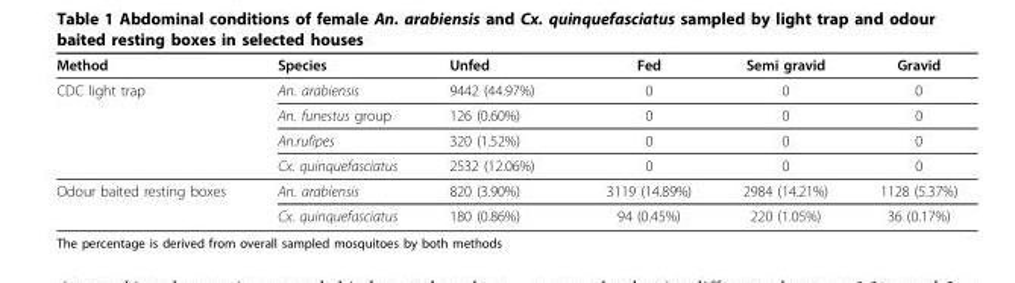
<table><thead><tr><td>Method</td><td>Species</td><td>Unfed</td><td>Fed</td><td>Semi gravid</td><td>Gravid</td></tr></thead><tbody><tr><td rowspan="4">CDC light trap</td><td>An. arabiensis</td><td>9442 (44.97%)</td><td>0</td><td>0</td><td>0</td></tr><tr><td>An. funestus group</td><td>126 (0.60%)</td><td>0</td><td>0</td><td>0</td></tr><tr><td>An.rufipes</td><td>320 (1.52%)</td><td>0</td><td>0</td><td>0</td></tr><tr><td>Cx. quinquefasciatus</td><td>2532 (12.06%)</td><td>0</td><td>0</td><td>0</td></tr><tr><td rowspan="2">Odour baited resting boxes</td><td>An. arabiensis</td><td>820 (3.90%)</td><td>3119 (14.89%)</td><td>2984 (14.21%)</td><td>1128 (5.37%)</td></tr><tr><td>Cx. quinquefasciatus</td><td>180 (0.86%)</td><td>94 (0.45%)</td><td>220 (1.05%)</td><td>36 (0.17%)</td></tr></tbody></table>